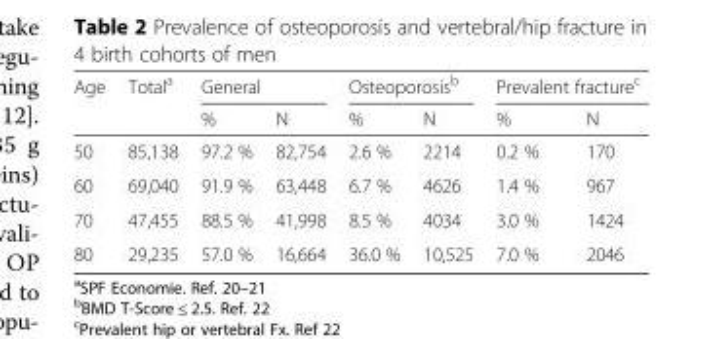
<table><thead><tr><td rowspan="2">Age</td><td rowspan="2">Total<sup>a</sup></td><td colspan="2">General</td><td colspan="2">Osteoporosis<sup>b</sup></td><td colspan="2">Prevalent fracture<sup>c</sup></td></tr><tr><td>%</td><td>N</td><td>%</td><td>N</td><td>%</td><td>N</td></tr></thead><tbody><tr><td>50</td><td>85,138</td><td>97.2 %</td><td>82,754</td><td>2.6 %</td><td>2214</td><td>0.2 %</td><td>170</td></tr><tr><td>60</td><td>69,040</td><td>91.9 %</td><td>63,448</td><td>6.7 %</td><td>4626</td><td>1.4 %</td><td>967</td></tr><tr><td>70</td><td>47,455</td><td>88.5 %</td><td>41,998</td><td>8.5 %</td><td>4034</td><td>3.0 %</td><td>1424</td></tr><tr><td>80</td><td>29,235</td><td>57.0 %</td><td>16,664</td><td>36.0 %</td><td>10,525</td><td>7.0 %</td><td>2046</td></tr></tbody></table>